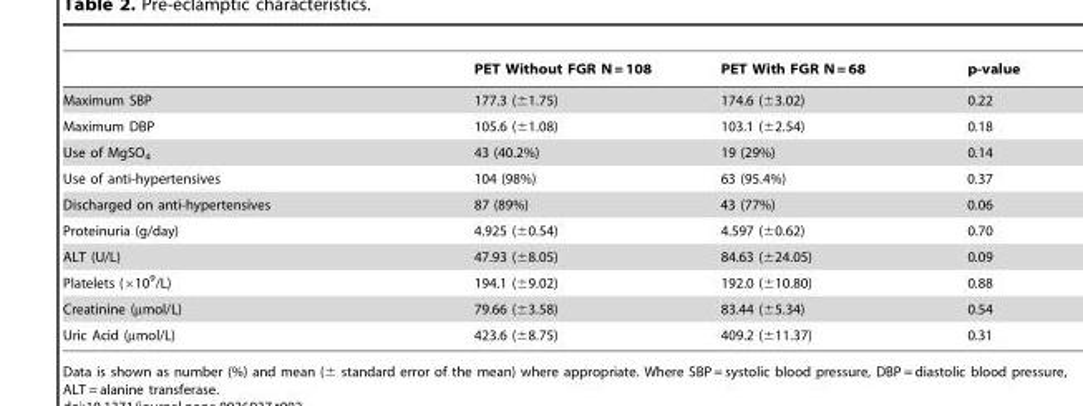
<table><thead><tr><td></td><td>PET Without FGR N = 108</td><td>PET With FGR N = 68</td><td>p-value</td></tr></thead><tbody><tr><td>Maximum SBP</td><td>177.3 (±1.75)</td><td>174.6 (±3.02)</td><td>0.22</td></tr><tr><td>Maximum DBP</td><td>105.6 (±1.08)</td><td>103.1 (±2.54)</td><td>0.18</td></tr><tr><td>Use of MgSO<sub>4</sub></td><td>43 (40.2%)</td><td>19 (29%)</td><td>0.14</td></tr><tr><td>Use of anti-hypertensives</td><td>104 (98%)</td><td>63 (95.4%)</td><td>0.37</td></tr><tr><td>Discharged on anti-hypertensives</td><td>87 (89%)</td><td>43 (77%)</td><td>0.06</td></tr><tr><td>Proteinuria (g/day)</td><td>4.925 (±0.54)</td><td>4.597 (±0.62)</td><td>0.70</td></tr><tr><td>ALT (U/L)</td><td>47.93 (±8.05)</td><td>84.63 (±24.05)</td><td>0.09</td></tr><tr><td>Platelets (×10<sup>9</sup>/L)</td><td>194.1 (±9.02)</td><td>192.0 (±10.80)</td><td>0.88</td></tr><tr><td>Creatinine (µmol/L)</td><td>79.66 (±3.58)</td><td>83.44 (±5.34)</td><td>0.54</td></tr><tr><td>Uric Acid (µmol/L)</td><td>423.6 (±8.75)</td><td>409.2 (±11.37)</td><td>0.31</td></tr></tbody></table>